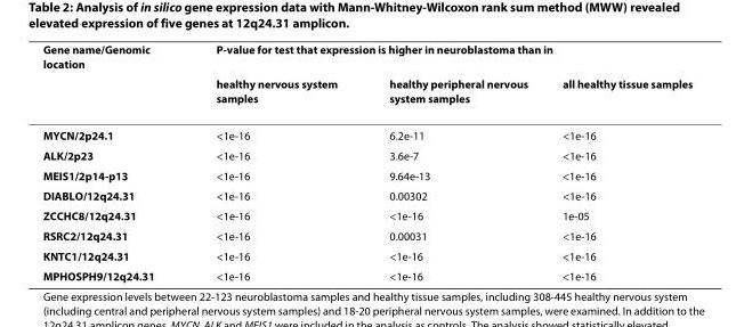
<table><thead><tr><td rowspan="2">Gene name/Genomic location</td><td colspan="3">P-value for test that expression is higher in neuroblastoma than in</td></tr><tr><td>healthy nervous system samples</td><td>healthy peripheral nervous system samples</td><td>all healthy tissue samples</td></tr></thead><tbody><tr><td>MYCN/2p24.1</td><td>&lt;1e-16</td><td>6.2e-11</td><td>&lt;1e-16</td></tr><tr><td>ALK/2p23</td><td>&lt;1e-16</td><td>3.6e-7</td><td>&lt;1e-16</td></tr><tr><td>MEIS1/2p14-p13</td><td>&lt;1e-16</td><td>9.64e-13</td><td>&lt;1e-16</td></tr><tr><td>DIABLO/12q24.31</td><td>&lt;1e-16</td><td>0.00302</td><td>&lt;1e-16</td></tr><tr><td>ZCCHC8/12q24.31</td><td>&lt;1e-16</td><td>&lt;1e-16</td><td>1e-05</td></tr><tr><td>RSRC2/12q24.31</td><td>&lt;1e-16</td><td>0.00031</td><td>&lt;1e-16</td></tr><tr><td>KNTC1/12q24.31</td><td>&lt;1e-16</td><td>&lt;1e-16</td><td>&lt;1e-16</td></tr><tr><td>MPHOSPH9/12q24.31</td><td>&lt;1e-16</td><td>&lt;1e-16</td><td>&lt;1e-16</td></tr></tbody></table>